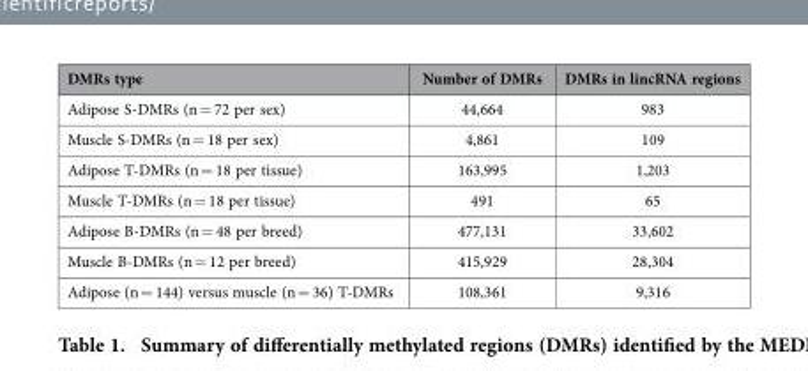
<table><thead><tr><td>DMRs type</td><td>Number of DMRs</td><td>DMRs in lincRNA regions</td></tr></thead><tbody><tr><td>Adipose S-DMRs (n = 72 per sex)</td><td>44,664</td><td>983</td></tr><tr><td>Muscle S-DMRs (n = 18 per sex)</td><td>4,861</td><td>109</td></tr><tr><td>Adipose T-DMRs (n = 18 per tissue)</td><td>163,995</td><td>1,203</td></tr><tr><td>Muscle T-DMRs (n = 18 per tissue)</td><td>491</td><td>65</td></tr><tr><td>Adipose B-DMRs (n = 48 per breed)</td><td>477,131</td><td>33,602</td></tr><tr><td>Muscle B-DMRs (n = 12 per breed)</td><td>415,929</td><td>28,304</td></tr><tr><td>Adipose (n = 144) versus muscle (n = 36) T-DMRs</td><td>108,361</td><td>9,316</td></tr></tbody></table>